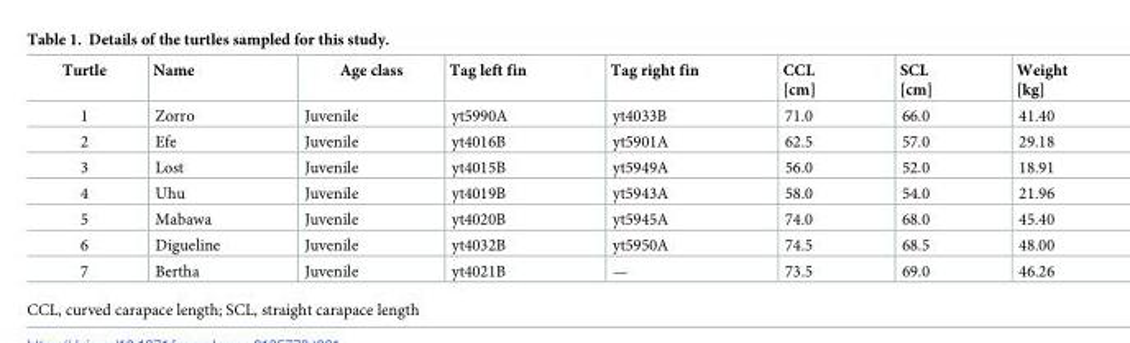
<table><thead><tr><td>Turtle</td><td>Name</td><td>Age class</td><td>Tag left fin</td><td>Tag right fin</td><td>CCL [cm]</td><td>SCL [cm]</td><td>Weight [kg]</td></tr></thead><tbody><tr><td>1</td><td>Zorro</td><td>Juvenile</td><td>yt5990A</td><td>yt4033B</td><td>71.0</td><td>66.0</td><td>41.40</td></tr><tr><td>2</td><td>Efe</td><td>Juvenile</td><td>yt4016B</td><td>yt5901A</td><td>62.5</td><td>57.0</td><td>29.18</td></tr><tr><td>3</td><td>Lost</td><td>Juvenile</td><td>yt4015B</td><td>yt5949A</td><td>56.0</td><td>52.0</td><td>18.91</td></tr><tr><td>4</td><td>Uhu</td><td>Juvenile</td><td>yt4019B</td><td>yt5943A</td><td>58.0</td><td>54.0</td><td>21.96</td></tr><tr><td>5</td><td>Mabawa</td><td>Juvenile</td><td>yt4020B</td><td>yt5945A</td><td>74.0</td><td>68.0</td><td>45.40</td></tr><tr><td>6</td><td>Digueline</td><td>Juvenile</td><td>yt4032B</td><td>yt5950A</td><td>74.5</td><td>68.5</td><td>48.00</td></tr><tr><td>7</td><td>Bertha</td><td>Juvenile</td><td>yt4021B</td><td>—</td><td>73.5</td><td>69.0</td><td>46.26</td></tr></tbody></table>